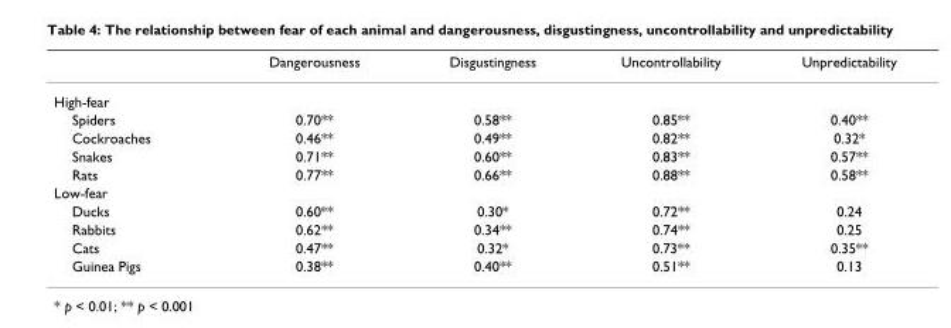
<table><thead><tr><td></td><td>Dangerousness</td><td>Disgustingness</td><td>Uncontrollability</td><td>Unpredictability</td></tr></thead><tbody><tr><td colspan="5">High-fear</td></tr><tr><td>Spiders</td><td>0.70**</td><td>0.58**</td><td>0.85**</td><td>0.40**</td></tr><tr><td>Cockroaches</td><td>0.46**</td><td>0.49**</td><td>0.82**</td><td>0.32*</td></tr><tr><td>Snakes</td><td>0.71**</td><td>0.60**</td><td>0.83**</td><td>0.57**</td></tr><tr><td>Rats</td><td>0.77**</td><td>0.66**</td><td>0.88**</td><td>0.58**</td></tr><tr><td colspan="5">Low-fear</td></tr><tr><td>Ducks</td><td>0.60**</td><td>0.30*</td><td>0.72**</td><td>0.24</td></tr><tr><td>Rabbits</td><td>0.62**</td><td>0.34**</td><td>0.74**</td><td>0.25</td></tr><tr><td>Cats</td><td>0.47**</td><td>0.32*</td><td>0.73**</td><td>0.35**</td></tr><tr><td>Guinea Pigs</td><td>0.38**</td><td>0.40**</td><td>0.51**</td><td>0.13</td></tr></tbody></table>